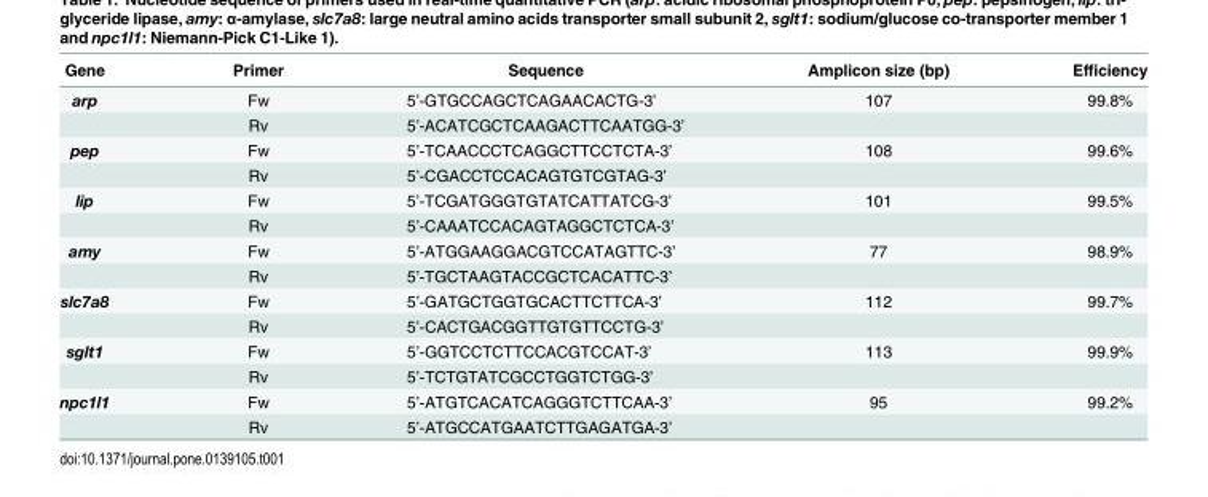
<table><thead><tr><td>Gene</td><td>Primer</td><td>Sequence</td><td>Amplicon size (bp)</td><td>Efficiency</td></tr></thead><tbody><tr><td rowspan="2">arp</td><td>Fw</td><td>5’-GTGCCAGCTCAGAACACTG-3’</td><td>107</td><td>99.8%</td></tr><tr><td>Rv</td><td>5’-ACATCGCTCAAGACTTCAATGG-3’</td><td></td><td></td></tr><tr><td rowspan="2">pep</td><td>Fw</td><td>5’-TCAACCCTCAGGCTTCCTCTA-3’</td><td>108</td><td>99.6%</td></tr><tr><td>Rv</td><td>5’-CGACCTCCACAGTGTCGTAG-3’</td><td></td><td></td></tr><tr><td rowspan="2">lip</td><td>Fw</td><td>5’-TCGATGGGTGTATCATTATCG-3’</td><td>101</td><td>99.5%</td></tr><tr><td>Rv</td><td>5’-CAAATCCACAGTAGGCTCTCA-3’</td><td></td><td></td></tr><tr><td rowspan="2">amy</td><td>Fw</td><td>5’-ATGGAAGGACGTCCATAGTTC-3’</td><td>77</td><td>98.9%</td></tr><tr><td>Rv</td><td>5’-TGCTAAGTACCGCTCACATTC-3’</td><td></td><td></td></tr><tr><td rowspan="2">slc7a8</td><td>Fw</td><td>5’-GATGCTGGTGCACTTCTTCA-3’</td><td>112</td><td>99.7%</td></tr><tr><td>Rv</td><td>5’-CACTGACGGTTGTGTTCCTG-3’</td><td></td><td></td></tr><tr><td rowspan="2">sglt1</td><td>Fw</td><td>5’-GGTCCTCTTCCACGTCCAT-3’</td><td>113</td><td>99.9%</td></tr><tr><td>Rv</td><td>5’-TCTGTATCGCCTGGTCTGG-3’</td><td></td><td></td></tr><tr><td rowspan="2">npc1l1</td><td>Fw</td><td>5’-ATGTCACATCAGGGTCTTCAA-3’</td><td>95</td><td>99.2%</td></tr><tr><td>Rv</td><td>5’-ATGCCATGAATCTTGAGATGA-3’</td><td></td><td></td></tr></tbody></table>